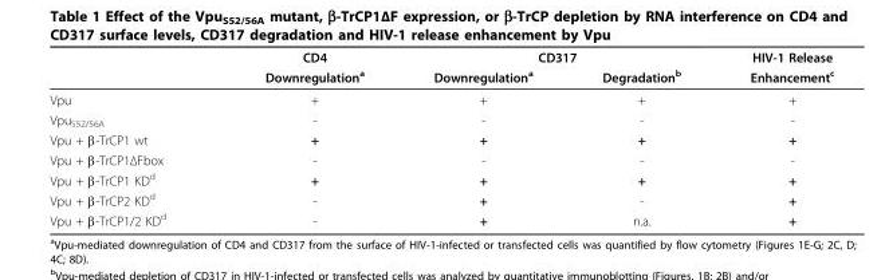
<table><thead><tr><td rowspan="2"></td><td rowspan="2">CD4 Downregulation<sup>a</sup></td><td colspan="2">CD317</td><td rowspan="2">HIV-1 Release Enhancement<sup>c</sup></td></tr><tr><td>Downregulation<sup>a</sup></td><td>Degradation<sup>b</sup></td></tr></thead><tbody><tr><td>Vpu</td><td>+</td><td>+</td><td>+</td><td>+</td></tr><tr><td>Vpu<sub>S52/56A</sub></td><td>-</td><td>-</td><td>-</td><td>-</td></tr><tr><td>Vpu + β-TrCP1 wt</td><td>+</td><td>+</td><td>+</td><td>+</td></tr><tr><td>Vpu + β-TrCP1ΔFbox</td><td>-</td><td>-</td><td>-</td><td>-</td></tr><tr><td>Vpu + β-TrCP1 KD<sup>d</sup></td><td>+</td><td>+</td><td>+</td><td>+</td></tr><tr><td>Vpu + β-TrCP2 KD<sup>d</sup></td><td>-</td><td>+</td><td>-</td><td>+</td></tr><tr><td>Vpu + β-TrCP1/2 KD<sup>d</sup></td><td>-</td><td>+</td><td>n.a.</td><td>+</td></tr></tbody></table>